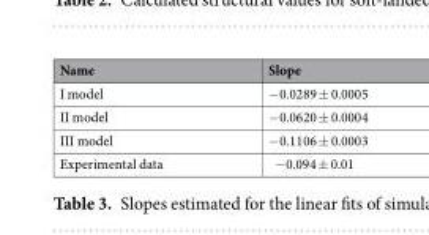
<table><thead><tr><td>Name</td><td>Slope</td></tr></thead><tbody><tr><td>I model</td><td>−0.0289 ± 0.0005</td></tr><tr><td>II model</td><td>−0.0620 ± 0.0004</td></tr><tr><td>III model</td><td>−0.1106 ± 0.0003</td></tr><tr><td>Experimental data</td><td>−0.094 ± 0.01</td></tr></tbody></table>